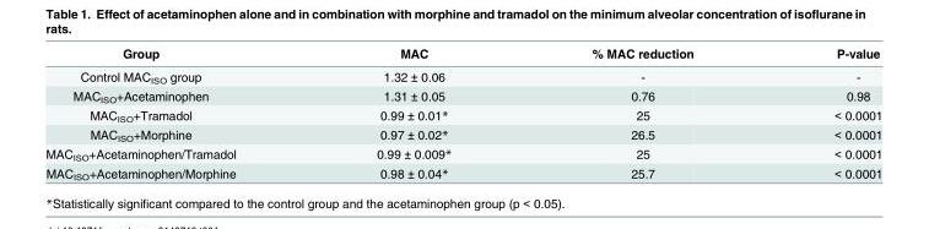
<table><thead><tr><td>Group</td><td>MAC</td><td>% MAC reduction</td><td>P-value</td></tr></thead><tbody><tr><td>Control MAC<sub>ISO</sub> group</td><td>1.32 ± 0.06</td><td>-</td><td>-</td></tr><tr><td>MAC<sub>ISO</sub>+Acetaminophen</td><td>1.31 ± 0.05</td><td>0.76</td><td>0.98</td></tr><tr><td>MAC<sub>ISO</sub>+Tramadol</td><td>0.99 ± 0.01*</td><td>25</td><td>&lt; 0.0001</td></tr><tr><td>MAC<sub>ISO</sub>+Morphine</td><td>0.97 ± 0.02*</td><td>26.5</td><td>&lt; 0.0001</td></tr><tr><td>MAC<sub>ISO</sub>+Acetaminophen/Tramadol</td><td>0.99 ± 0.009*</td><td>25</td><td>&lt; 0.0001</td></tr><tr><td>MAC<sub>ISO</sub>+Acetaminophen/Morphine</td><td>0.98 ± 0.04*</td><td>25.7</td><td>&lt; 0.0001</td></tr></tbody></table>